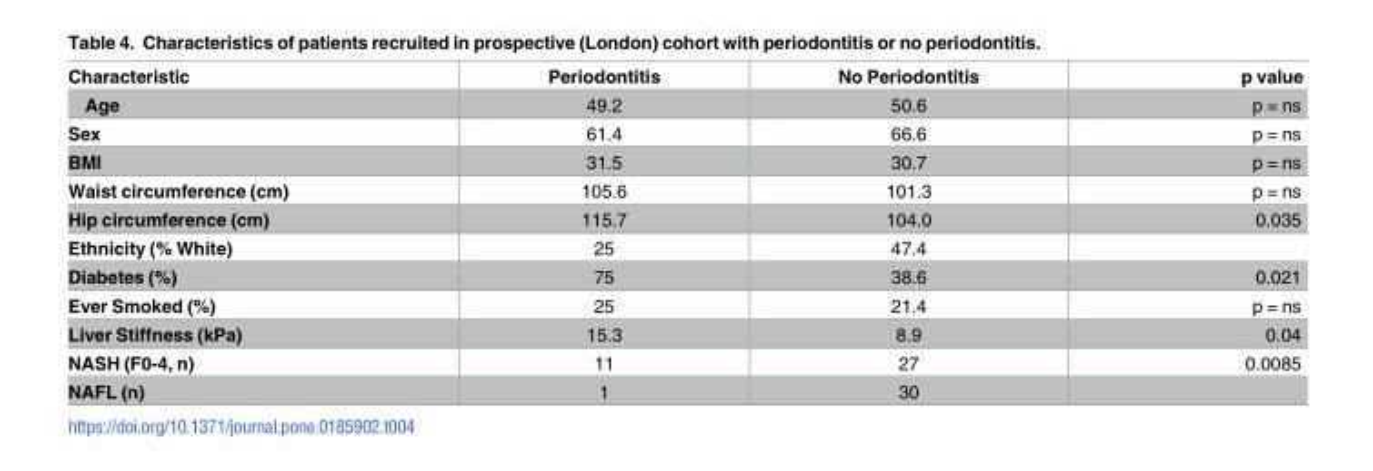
<table><thead><tr><td>Characteristic</td><td>Periodontitis</td><td>No Periodontitis</td><td>p value</td></tr></thead><tbody><tr><td>Age</td><td>49.2</td><td>50.6</td><td>p = ns</td></tr><tr><td>Sex</td><td>61.4</td><td>66.6</td><td>p = ns</td></tr><tr><td>BMI</td><td>31.5</td><td>30.7</td><td>p = ns</td></tr><tr><td>Waist circumference (cm)</td><td>105.6</td><td>101.3</td><td>p = ns</td></tr><tr><td>Hip circumference (cm)</td><td>115.7</td><td>104.0</td><td>0.035</td></tr><tr><td>Ethnicity (% White)</td><td>25</td><td>47.4</td><td></td></tr><tr><td>Diabetes (%)</td><td>75</td><td>38.6</td><td>0.021</td></tr><tr><td>Ever Smoked (%)</td><td>25</td><td>21.4</td><td>p = ns</td></tr><tr><td>Liver Stiffness (kPa)</td><td>15.3</td><td>8.9</td><td>0.04</td></tr><tr><td>NASH (F0-4, n)</td><td>11</td><td>27</td><td>0.0085</td></tr><tr><td>NAFL (n)</td><td>1</td><td>30</td><td></td></tr></tbody></table>